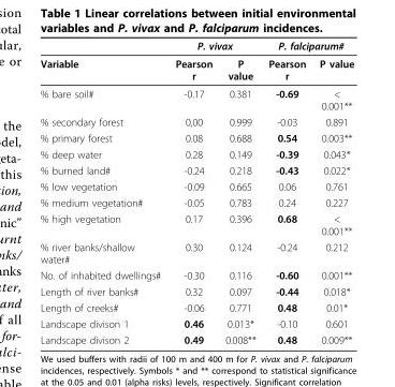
<table><thead><tr><td rowspan="2">Variable</td><td colspan="2">P. vivax</td><td colspan="2">P. falciparum#</td></tr><tr><td>Pearson r</td><td>P value</td><td>Pearson r</td><td>P value</td></tr></thead><tbody><tr><td>% bare soil#</td><td>-0.17</td><td>0.381</td><td>-0.69</td><td>&lt; 0.001**</td></tr><tr><td>% secondary forest</td><td>0,00</td><td>0.999</td><td>-0.03</td><td>0.891</td></tr><tr><td>% primary forest</td><td>0.08</td><td>0.688</td><td>0.54</td><td>0.003**</td></tr><tr><td>% deep water</td><td>0.28</td><td>0.149</td><td>-0.39</td><td>0.043*</td></tr><tr><td>% burned land#</td><td>-0.24</td><td>0.218</td><td>-0.43</td><td>0.022*</td></tr><tr><td>% low vegetation</td><td>-0.09</td><td>0.665</td><td>0.06</td><td>0.761</td></tr><tr><td>% medium vegetation#</td><td>-0.05</td><td>0.783</td><td>0.24</td><td>0.227</td></tr><tr><td>% high vegetation</td><td>0.17</td><td>0.396</td><td>0.68</td><td>&lt; 0.001**</td></tr><tr><td>% river banks/shallow water#</td><td>0.30</td><td>0.124</td><td>-0.24</td><td>0.212</td></tr><tr><td>No. of inhabited dwellings#</td><td>-0.30</td><td>0.116</td><td>-0.60</td><td>0.001**</td></tr><tr><td>Length of river banks#</td><td>0.32</td><td>0.097</td><td>-0.44</td><td>0.018*</td></tr><tr><td>Length of creeks#</td><td>-0.06</td><td>0.771</td><td>0.48</td><td>0.01*</td></tr><tr><td>Landscape divison 1</td><td>0.46</td><td>0.013*</td><td>-0.10</td><td>0.601</td></tr><tr><td>Landscape divison 2</td><td>0.49</td><td>0.008**</td><td>0.48</td><td>0.009**</td></tr></tbody></table>